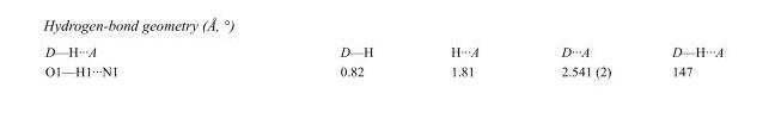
<table><tbody><tr><td>D—H···A</td><td>D—H</td><td>H···A</td><td>D···A</td><td>D—H···A</td></tr><tr><td>O1—H1···N1</td><td>0.82</td><td>1.81</td><td>2.541 (2)</td><td>147</td></tr></tbody></table>